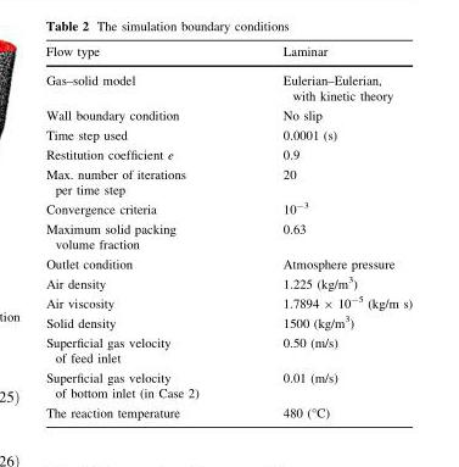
<table><thead><tr><td>Flow type</td><td>Laminar</td></tr></thead><tbody><tr><td>Gas–solid model</td><td>Eulerian–Eulerian, with kinetic theory</td></tr><tr><td>Wall boundary condition</td><td>No slip</td></tr><tr><td>Time step used</td><td>0.0001 (s)</td></tr><tr><td>Restitution coefficient e</td><td>0.9</td></tr><tr><td>Max. number of iterations per time step</td><td>20</td></tr><tr><td>Convergence criteria</td><td>10<sup>-3</sup></td></tr><tr><td>Maximum solid packing volume fraction</td><td>0.63</td></tr><tr><td>Outlet condition</td><td>Atmosphere pressure</td></tr><tr><td>Air density</td><td>1.225 (kg/m<sup>3</sup>)</td></tr><tr><td>Air viscosity</td><td>1.7894 × 10<sup>-5</sup> (kg/m s)</td></tr><tr><td>Solid density</td><td>1500 (kg/m<sup>3</sup>)</td></tr><tr><td>Superficial gas velocity of feed inlet</td><td>0.50 (m/s)</td></tr><tr><td>Superficial gas velocity of bottom inlet (in Case 2)</td><td>0.01 (m/s)</td></tr><tr><td>The reaction temperature</td><td>480 (°C)</td></tr></tbody></table>